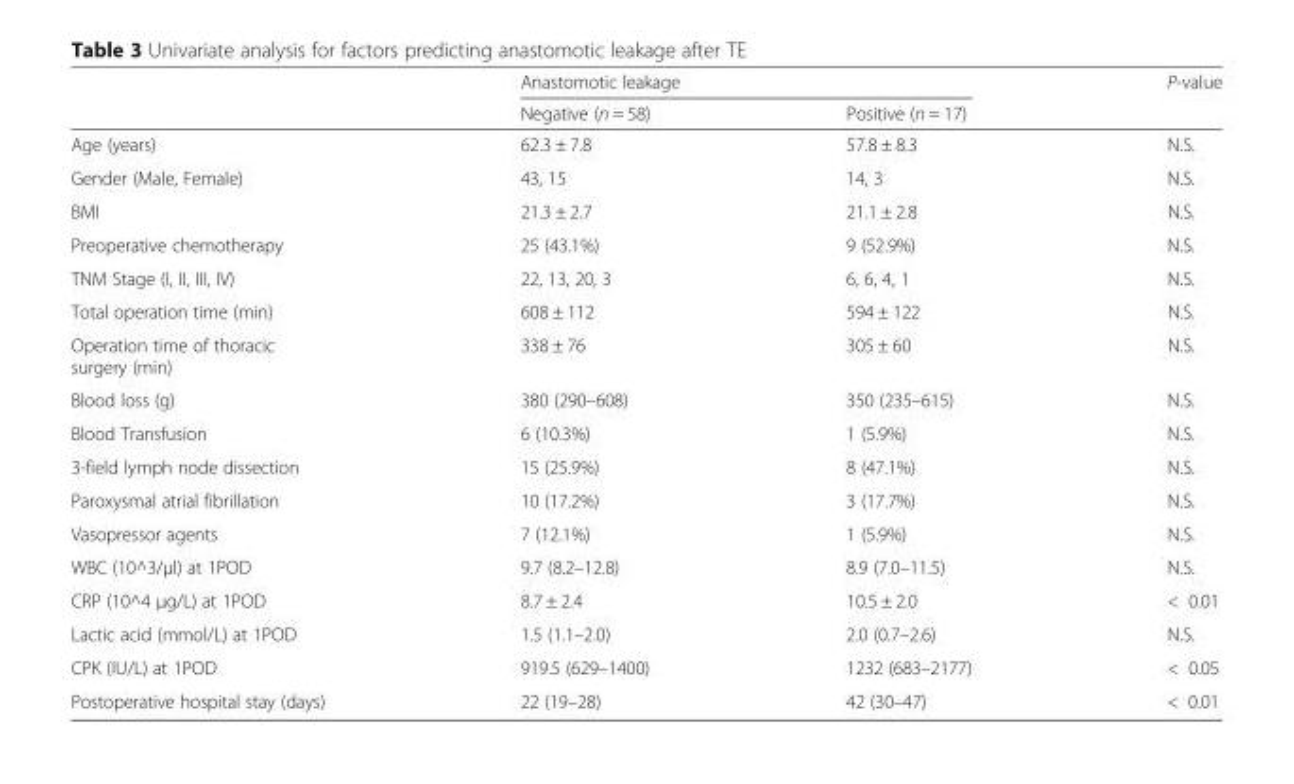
<table><thead><tr><td rowspan="2"></td><td colspan="2">Anastomotic leakage</td><td rowspan="2">P-value</td></tr><tr><td>Negative (n = 58)</td><td>Positive (n = 17)</td></tr></thead><tbody><tr><td>Age (years)</td><td>62.3 ± 7.8</td><td>57.8 ± 8.3</td><td>N.S.</td></tr><tr><td>Gender (Male, Female)</td><td>43, 15</td><td>14, 3</td><td>N.S.</td></tr><tr><td>BMI</td><td>21.3 ± 2.7</td><td>21.1 ± 2.8</td><td>N.S.</td></tr><tr><td>Preoperative chemotherapy</td><td>25 (43.1%)</td><td>9 (52.9%)</td><td>N.S.</td></tr><tr><td>TNM Stage (I, II, III, IV)</td><td>22, 13, 20, 3</td><td>6, 6, 4, 1</td><td>N.S.</td></tr><tr><td>Total operation time (min)</td><td>608 ± 112</td><td>594 ± 122</td><td>N.S.</td></tr><tr><td>Operation time of thoracic surgery (min)</td><td>338 ± 76</td><td>305 ± 60</td><td>N.S.</td></tr><tr><td>Blood loss (g)</td><td>380 (290–608)</td><td>350 (235–615)</td><td>N.S.</td></tr><tr><td>Blood Transfusion</td><td>6 (10.3%)</td><td>1 (5.9%)</td><td>N.S.</td></tr><tr><td>3-field lymph node dissection</td><td>15 (25.9%)</td><td>8 (47.1%)</td><td>N.S.</td></tr><tr><td>Paroxysmal atrial fibrillation</td><td>10 (17.2%)</td><td>3 (17.7%)</td><td>N.S.</td></tr><tr><td>Vasopressor agents</td><td>7 (12.1%)</td><td>1 (5.9%)</td><td>N.S.</td></tr><tr><td>WBC (10^3/μl) at 1POD</td><td>9.7 (8.2–12.8)</td><td>8.9 (7.0–11.5)</td><td>N.S.</td></tr><tr><td>CRP (10^4 μg/L) at 1POD</td><td>8.7 ± 2.4</td><td>10.5 ± 2.0</td><td>&lt; 0.01</td></tr><tr><td>Lactic acid (mmol/L) at 1POD</td><td>1.5 (1.1–2.0)</td><td>2.0 (0.7–2.6)</td><td>N.S.</td></tr><tr><td>CPK (IU/L) at 1POD</td><td>919.5 (629–1400)</td><td>1232 (683–2177)</td><td>&lt; 0.05</td></tr><tr><td>Postoperative hospital stay (days)</td><td>22 (19–28)</td><td>42 (30–47)</td><td>&lt; 0.01</td></tr></tbody></table>